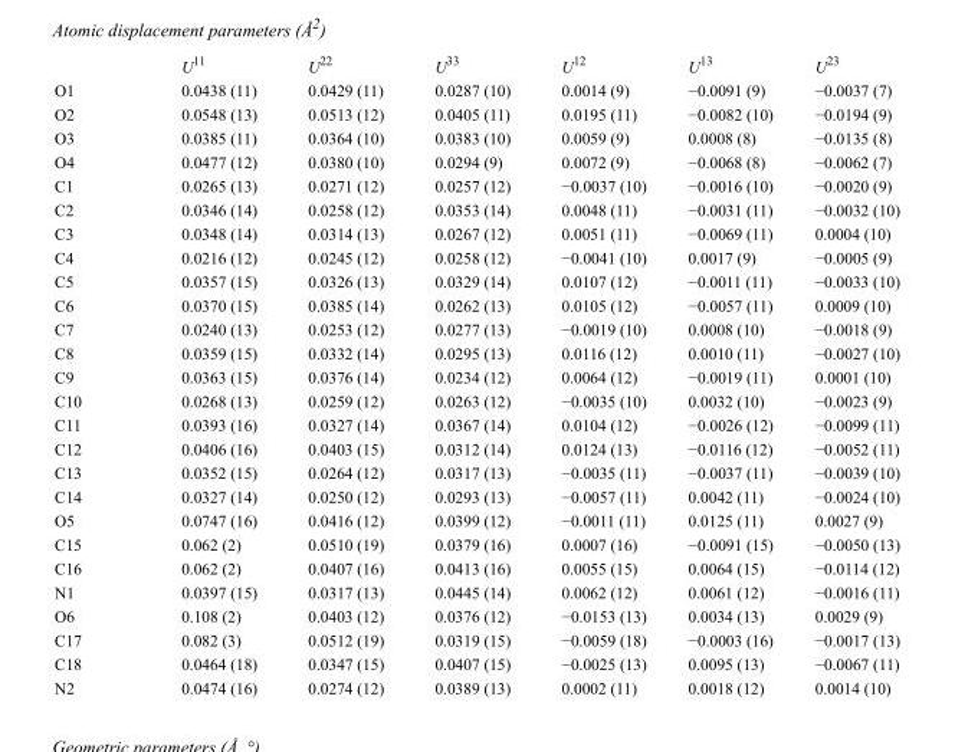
<table><thead><tr><td></td><td>U<sup>11</sup></td><td>U<sup>22</sup></td><td>U<sup>33</sup></td><td>U<sup>12</sup></td><td>U<sup>13</sup></td><td>U<sup>23</sup></td></tr></thead><tbody><tr><td>O1</td><td>0.0438 (11)</td><td>0.0429 (11)</td><td>0.0287 (10)</td><td>0.0014 (9)</td><td>−0.0091 (9)</td><td>−0.0037 (7)</td></tr><tr><td>O2</td><td>0.0548 (13)</td><td>0.0513 (12)</td><td>0.0405 (11)</td><td>0.0195 (11)</td><td>−0.0082 (10)</td><td>−0.0194 (9)</td></tr><tr><td>O3</td><td>0.0385 (11)</td><td>0.0364 (10)</td><td>0.0383 (10)</td><td>0.0059 (9)</td><td>0.0008 (8)</td><td>−0.0135 (8)</td></tr><tr><td>O4</td><td>0.0477 (12)</td><td>0.0380 (10)</td><td>0.0294 (9)</td><td>0.0072 (9)</td><td>−0.0068 (8)</td><td>−0.0062 (7)</td></tr><tr><td>C1</td><td>0.0265 (13)</td><td>0.0271 (12)</td><td>0.0257 (12)</td><td>−0.0037 (10)</td><td>−0.0016 (10)</td><td>−0.0020 (9)</td></tr><tr><td>C2</td><td>0.0346 (14)</td><td>0.0258 (12)</td><td>0.0353 (14)</td><td>0.0048 (11)</td><td>−0.0031 (11)</td><td>−0.0032 (10)</td></tr><tr><td>C3</td><td>0.0348 (14)</td><td>0.0314 (13)</td><td>0.0267 (12)</td><td>0.0051 (11)</td><td>−0.0069 (11)</td><td>0.0004 (10)</td></tr><tr><td>C4</td><td>0.0216 (12)</td><td>0.0245 (12)</td><td>0.0258 (12)</td><td>−0.0041 (10)</td><td>0.0017 (9)</td><td>−0.0005 (9)</td></tr><tr><td>C5</td><td>0.0357 (15)</td><td>0.0326 (13)</td><td>0.0329 (14)</td><td>0.0107 (12)</td><td>−0.0011 (11)</td><td>−0.0033 (10)</td></tr><tr><td>C6</td><td>0.0370 (15)</td><td>0.0385 (14)</td><td>0.0262 (13)</td><td>0.0105 (12)</td><td>−0.0057 (11)</td><td>0.0009 (10)</td></tr><tr><td>C7</td><td>0.0240 (13)</td><td>0.0253 (12)</td><td>0.0277 (13)</td><td>−0.0019 (10)</td><td>0.0008 (10)</td><td>−0.0018 (9)</td></tr><tr><td>C8</td><td>0.0359 (15)</td><td>0.0332 (14)</td><td>0.0295 (13)</td><td>0.0116 (12)</td><td>0.0010 (11)</td><td>−0.0027 (10)</td></tr><tr><td>C9</td><td>0.0363 (15)</td><td>0.0376 (14)</td><td>0.0234 (12)</td><td>0.0064 (12)</td><td>−0.0019 (11)</td><td>0.0001 (10)</td></tr><tr><td>C10</td><td>0.0268 (13)</td><td>0.0259 (12)</td><td>0.0263 (12)</td><td>−0.0035 (10)</td><td>0.0032 (10)</td><td>−0.0023 (9)</td></tr><tr><td>C11</td><td>0.0393 (16)</td><td>0.0327 (14)</td><td>0.0367 (14)</td><td>0.0104 (12)</td><td>−0.0026 (12)</td><td>−0.0099 (11)</td></tr><tr><td>C12</td><td>0.0406 (16)</td><td>0.0403 (15)</td><td>0.0312 (14)</td><td>0.0124 (13)</td><td>−0.0116 (12)</td><td>−0.0052 (11)</td></tr><tr><td>C13</td><td>0.0352 (15)</td><td>0.0264 (12)</td><td>0.0317 (13)</td><td>−0.0035 (11)</td><td>−0.0037 (11)</td><td>−0.0039 (10)</td></tr><tr><td>C14</td><td>0.0327 (14)</td><td>0.0250 (12)</td><td>0.0293 (13)</td><td>−0.0057 (11)</td><td>0.0042 (11)</td><td>−0.0024 (10)</td></tr><tr><td>O5</td><td>0.0747 (16)</td><td>0.0416 (12)</td><td>0.0399 (12)</td><td>−0.0011 (11)</td><td>0.0125 (11)</td><td>0.0027 (9)</td></tr><tr><td>C15</td><td>0.062 (2)</td><td>0.0510 (19)</td><td>0.0379 (16)</td><td>0.0007 (16)</td><td>−0.0091 (15)</td><td>−0.0050 (13)</td></tr><tr><td>C16</td><td>0.062 (2)</td><td>0.0407 (16)</td><td>0.0413 (16)</td><td>0.0055 (15)</td><td>0.0064 (15)</td><td>−0.0114 (12)</td></tr><tr><td>N1</td><td>0.0397 (15)</td><td>0.0317 (13)</td><td>0.0445 (14)</td><td>0.0062 (12)</td><td>0.0061 (12)</td><td>−0.0016 (11)</td></tr><tr><td>O6</td><td>0.108 (2)</td><td>0.0403 (12)</td><td>0.0376 (12)</td><td>−0.0153 (13)</td><td>0.0034 (13)</td><td>0.0029 (9)</td></tr><tr><td>C17</td><td>0.082 (3)</td><td>0.0512 (19)</td><td>0.0319 (15)</td><td>−0.0059 (18)</td><td>−0.0003 (16)</td><td>−0.0017 (13)</td></tr><tr><td>C18</td><td>0.0464 (18)</td><td>0.0347 (15)</td><td>0.0407 (15)</td><td>−0.0025 (13)</td><td>0.0095 (13)</td><td>−0.0067 (11)</td></tr><tr><td>N2</td><td>0.0474 (16)</td><td>0.0274 (12)</td><td>0.0389 (13)</td><td>0.0002 (11)</td><td>0.0018 (12)</td><td>0.0014 (10)</td></tr></tbody></table>